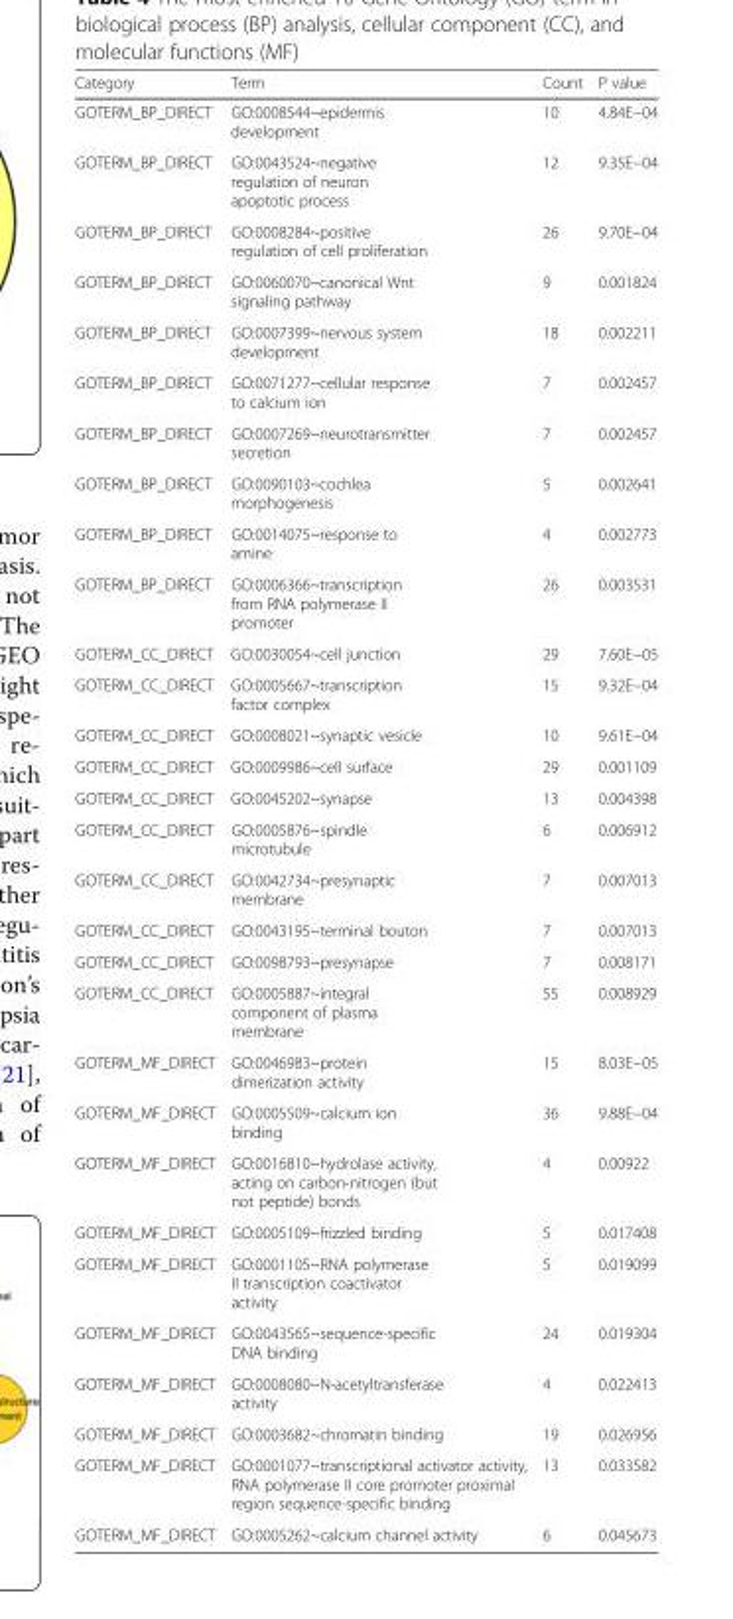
<table><thead><tr><td>Category</td><td>Term</td><td>Count</td><td>P value</td></tr></thead><tbody><tr><td>GOTERM_BP_DIRECT</td><td>GO:0008544~epidermis development</td><td>10</td><td>4.84E−04</td></tr><tr><td>GOTERM_BP_DIRECT</td><td>GO:0043524~negative regulation of neuron apoptotic process</td><td>12</td><td>9.35E−04</td></tr><tr><td>GOTERM_BP_DIRECT</td><td>GO:0008284~positive regulation of cell proliferation</td><td>26</td><td>9.70E−04</td></tr><tr><td>GOTERM_BP_DIRECT</td><td>GO:0060070~canonical Wnt signaling pathway</td><td>9</td><td>0.001824</td></tr><tr><td>GOTERM_BP_DIRECT</td><td>GO:0007399~nervous system development</td><td>18</td><td>0.002211</td></tr><tr><td>GOTERM_BP_DIRECT</td><td>GO:0071277~cellular response to calcium ion</td><td>7</td><td>0.002457</td></tr><tr><td>GOTERM_BP_DIRECT</td><td>GO:0007269~neurotransmitter secretion</td><td>7</td><td>0.002457</td></tr><tr><td>GOTERM_BP_DIRECT</td><td>GO:0090103~cochlea morphogenesis</td><td>5</td><td>0.002641</td></tr><tr><td>GOTERM_BP_DIRECT</td><td>GO:0014075~response to amine</td><td>4</td><td>0.002773</td></tr><tr><td>GOTERM_BP_DIRECT</td><td>GO:0006366~transcription from RNA polymerase II promoter</td><td>26</td><td>0.003531</td></tr><tr><td>GOTERM_CC_DIRECT</td><td>GO:0030054~cell junction</td><td>29</td><td>7.60E−05</td></tr><tr><td>GOTERM_CC_DIRECT</td><td>GO:0005667~transcription factor complex</td><td>15</td><td>9.32E−04</td></tr><tr><td>GOTERM_CC_DIRECT</td><td>GO:0008021~synaptic vesicle</td><td>10</td><td>9.61E−04</td></tr><tr><td>GOTERM_CC_DIRECT</td><td>GO:0009986~cell surface</td><td>29</td><td>0.001109</td></tr><tr><td>GOTERM_CC_DIRECT</td><td>GO:0045202~synapse</td><td>13</td><td>0.004398</td></tr><tr><td>GOTERM_CC_DIRECT</td><td>GO:0005876~spindle microtubule</td><td>6</td><td>0.006912</td></tr><tr><td>GOTERM_CC_DIRECT</td><td>GO:0042734~presynaptic membrane</td><td>7</td><td>0.007013</td></tr><tr><td>GOTERM_CC_DIRECT</td><td>GO:0043195~terminal bouton</td><td>7</td><td>0.007013</td></tr><tr><td>GOTERM_CC_DIRECT</td><td>GO:0098793~presynapse</td><td>7</td><td>0.008171</td></tr><tr><td>GOTERM_CC_DIRECT</td><td>GO:0005887~integral component of plasma membrane</td><td>55</td><td>0.008929</td></tr><tr><td>GOTERM_MF_DIRECT</td><td>GO:0046983~protein dimerization activity</td><td>15</td><td>8.03E−05</td></tr><tr><td>GOTERM_MF_DIRECT</td><td>GO:0005509~calcium ion binding</td><td>36</td><td>9.88E−04</td></tr><tr><td>GOTERM_MF_DIRECT</td><td>GO:0016810~hydrolase activity, acting on carbon-nitrogen (but not peptide) bonds</td><td>4</td><td>0.00922</td></tr><tr><td>GOTERM_MF_DIRECT</td><td>GO:0005109~frizzled binding</td><td>5</td><td>0.017408</td></tr><tr><td>GOTERM_MF_DIRECT</td><td>GO:0001105~RNA polymerase II transcription coactivator activity</td><td>5</td><td>0.019099</td></tr><tr><td>GOTERM_MF_DIRECT</td><td>GO:0043565~sequence-specific DNA binding</td><td>24</td><td>0.019304</td></tr><tr><td>GOTERM_MF_DIRECT</td><td>GO:0008080~N-acetyltransferase activity</td><td>4</td><td>0.022413</td></tr><tr><td>GOTERM_MF_DIRECT</td><td>GO:0003682~chromatin binding</td><td>19</td><td>0.026956</td></tr><tr><td>GOTERM_MF_DIRECT</td><td>GO:0001077~transcriptional activator activity, RNA polymerase II core promoter proximal region sequence-specific binding</td><td>13</td><td>0.033582</td></tr><tr><td>GOTERM_MF_DIRECT</td><td>GO:0005262~calcium channel activity</td><td>6</td><td>0.045673</td></tr></tbody></table>